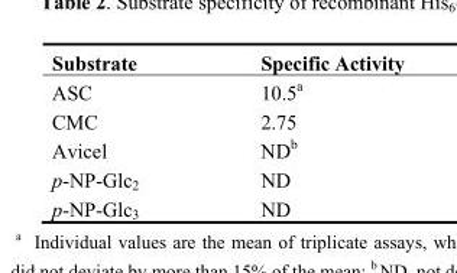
<table><thead><tr><td>Substrate</td><td>Specific Activity</td></tr></thead><tbody><tr><td>ASC</td><td>10.5<sup>a</sup></td></tr><tr><td>CMC</td><td>2.75</td></tr><tr><td>Avicel</td><td>ND<sup>b</sup></td></tr><tr><td>p-NP-Glc<sub>2</sub></td><td>ND</td></tr><tr><td>p-NP-Glc<sub>3</sub></td><td>ND</td></tr></tbody></table>